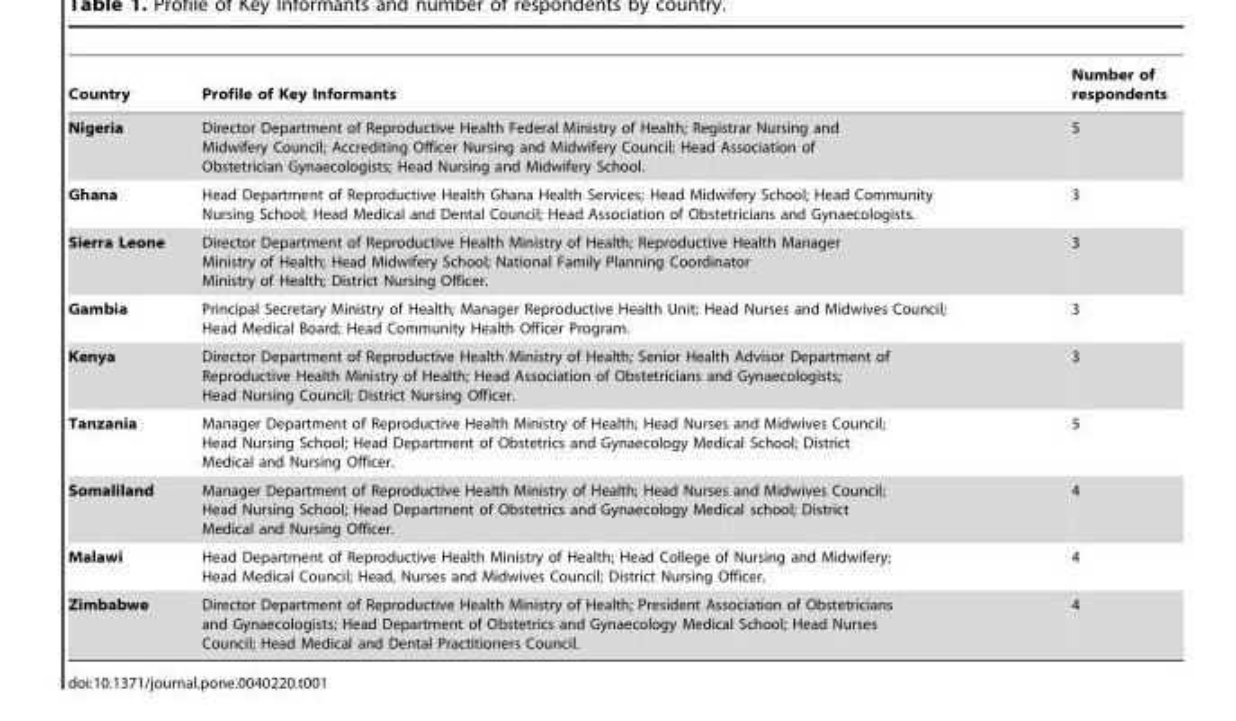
<table><thead><tr><td>Country</td><td>Profile of Key Informants</td><td>Number of respondents</td></tr></thead><tbody><tr><td>Nigeria</td><td>Director Department of Reproductive Health Federal Ministry of Health; Registrar Nursing and Midwifery Council; Accrediting Officer Nursing and Midwifery Council; Head Association of Obstetrician Gynaecologists; Head Nursing and Midwifery School.</td><td>5</td></tr><tr><td>Ghana</td><td>Head Department of Reproductive Health Ghana Health Services; Head Midwifery School; Head Community Nursing School; Head Medical and Dental Council; Head Association of Obstetricians and Gynaecologists.</td><td>3</td></tr><tr><td>Sierra Leone</td><td>Director Department of Reproductive Health Ministry of Health; Reproductive Health Manager Ministry of Health; Head Midwifery School; National Family Planning Coordinator Ministry of Health; District Nursing Officer.</td><td>3</td></tr><tr><td>Gambia</td><td>Principal Secretary Ministry of Health; Manager Reproductive Health Unit; Head Nurses and Midwives Council; Head Medical Board; Head Community Health Officer Program.</td><td>3</td></tr><tr><td>Kenya</td><td>Director Department of Reproductive Health Ministry of Health; Senior Health Advisor Department of Reproductive Health Ministry of Health; Head Association of Obstetricians and Gynaecologists; Head Nursing Council; District Nursing Officer.</td><td>3</td></tr><tr><td>Tanzania</td><td>Manager Department of Reproductive Health Ministry of Health; Head Nurses and Midwives Council; Head Nursing School; Head Department of Obstetrics and Gynaecology Medical School; District Medical and Nursing Officer.</td><td>5</td></tr><tr><td>Somaliland</td><td>Manager Department of Reproductive Health Ministry of Health; Head Nurses and Midwives Council; Head Nursing School; Head Department of Obstetrics and Gynaecology Medical school; District Medical and Nursing Officer.</td><td>4</td></tr><tr><td>Malawi</td><td>Head Department of Reproductive Health Ministry of Health; Head College of Nursing and Midwifery; Head Medical Council; Head, Nurses and Midwives Council; District Nursing Officer.</td><td>4</td></tr><tr><td>Zimbabwe</td><td>Director Department of Reproductive Health Ministry of Health; President Association of Obstetricians and Gynaecologists; Head Department of Obstetrics and Gynaecology Medical School; Head Nurses Council; Head Medical and Dental Practitioners Council.</td><td>4</td></tr></tbody></table>